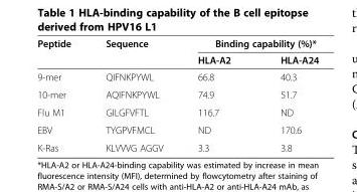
<table><thead><tr><td rowspan="2">Peptide</td><td rowspan="2">Sequence</td><td colspan="2">Binding capability (%)*</td></tr><tr><td>HLA-A2</td><td>HLA-A24</td></tr></thead><tbody><tr><td>9-mer</td><td>QIFNKPYWL</td><td>66.8</td><td>40.3</td></tr><tr><td>10-mer</td><td>AQIFNKPYWL</td><td>74.9</td><td>51.7</td></tr><tr><td>Flu M1</td><td>GILGFVFTL</td><td>116.7</td><td>ND</td></tr><tr><td>EBV</td><td>TYGPVFMCL</td><td>ND</td><td>170.6</td></tr><tr><td>K-Ras</td><td>KLVVVG AGGV</td><td>3.3</td><td>3.8</td></tr></tbody></table>